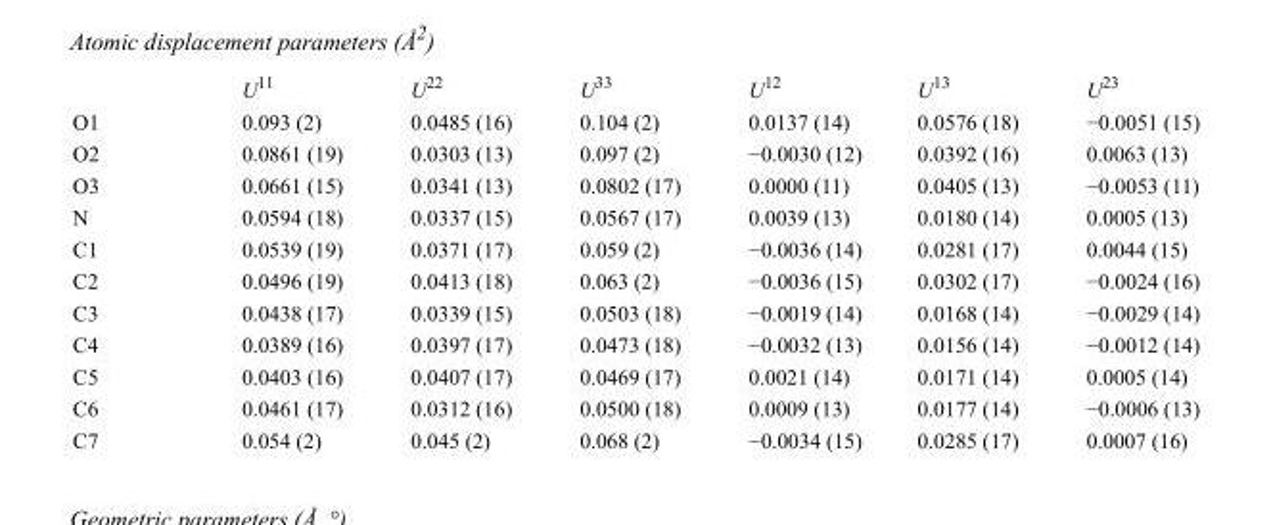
<table><thead><tr><td></td><td>U<sup>11</sup></td><td>U<sup>22</sup></td><td>U<sup>33</sup></td><td>U<sup>12</sup></td><td>U<sup>13</sup></td><td>U<sup>23</sup></td></tr></thead><tbody><tr><td>O1</td><td>0.093 (2)</td><td>0.0485 (16)</td><td>0.104 (2)</td><td>0.0137 (14)</td><td>0.0576 (18)</td><td>−0.0051 (15)</td></tr><tr><td>O2</td><td>0.0861 (19)</td><td>0.0303 (13)</td><td>0.097 (2)</td><td>−0.0030 (12)</td><td>0.0392 (16)</td><td>0.0063 (13)</td></tr><tr><td>O3</td><td>0.0661 (15)</td><td>0.0341 (13)</td><td>0.0802 (17)</td><td>0.0000 (11)</td><td>0.0405 (13)</td><td>−0.0053 (11)</td></tr><tr><td>N</td><td>0.0594 (18)</td><td>0.0337 (15)</td><td>0.0567 (17)</td><td>0.0039 (13)</td><td>0.0180 (14)</td><td>0.0005 (13)</td></tr><tr><td>C1</td><td>0.0539 (19)</td><td>0.0371 (17)</td><td>0.059 (2)</td><td>−0.0036 (14)</td><td>0.0281 (17)</td><td>0.0044 (15)</td></tr><tr><td>C2</td><td>0.0496 (19)</td><td>0.0413 (18)</td><td>0.063 (2)</td><td>−0.0036 (15)</td><td>0.0302 (17)</td><td>−0.0024 (16)</td></tr><tr><td>C3</td><td>0.0438 (17)</td><td>0.0339 (15)</td><td>0.0503 (18)</td><td>−0.0019 (14)</td><td>0.0168 (14)</td><td>−0.0029 (14)</td></tr><tr><td>C4</td><td>0.0389 (16)</td><td>0.0397 (17)</td><td>0.0473 (18)</td><td>−0.0032 (13)</td><td>0.0156 (14)</td><td>−0.0012 (14)</td></tr><tr><td>C5</td><td>0.0403 (16)</td><td>0.0407 (17)</td><td>0.0469 (17)</td><td>0.0021 (14)</td><td>0.0171 (14)</td><td>0.0005 (14)</td></tr><tr><td>C6</td><td>0.0461 (17)</td><td>0.0312 (16)</td><td>0.0500 (18)</td><td>0.0009 (13)</td><td>0.0177 (14)</td><td>−0.0006 (13)</td></tr><tr><td>C7</td><td>0.054 (2)</td><td>0.045 (2)</td><td>0.068 (2)</td><td>−0.0034 (15)</td><td>0.0285 (17)</td><td>0.0007 (16)</td></tr></tbody></table>